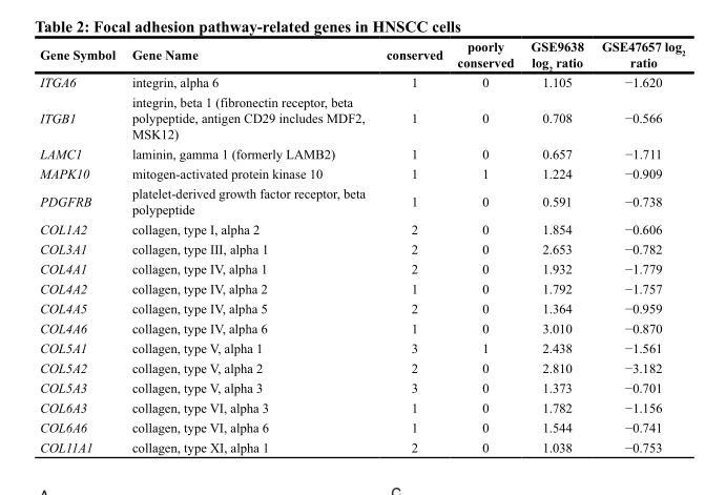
<table><thead><tr><td>Gene Symbol</td><td>Gene Name</td><td>conserved</td><td>poorly conserved</td><td>GSE9638 log<sub>2</sub> ratio</td><td>GSE47657 log<sub>2</sub> ratio</td></tr></thead><tbody><tr><td>ITGA6</td><td>integrin, alpha 6</td><td>1</td><td>0</td><td>1.105</td><td>−1.620</td></tr><tr><td>ITGB1</td><td>integrin, beta 1 (fibronectin receptor, beta polypeptide, antigen CD29 includes MDF2, MSK12)</td><td>1</td><td>0</td><td>0.708</td><td>−0.566</td></tr><tr><td>LAMC1</td><td>laminin, gamma 1 (formerly LAMB2)</td><td>1</td><td>0</td><td>0.657</td><td>−1.711</td></tr><tr><td>MAPK10</td><td>mitogen-activated protein kinase 10</td><td>1</td><td>1</td><td>1.224</td><td>−0.909</td></tr><tr><td>PDGFRB</td><td>platelet-derived growth factor receptor, beta polypeptide</td><td>1</td><td>0</td><td>0.591</td><td>−0.738</td></tr><tr><td>COL1A2</td><td>collagen, type I, alpha 2</td><td>2</td><td>0</td><td>1.854</td><td>−0.606</td></tr><tr><td>COL3A1</td><td>collagen, type III, alpha 1</td><td>2</td><td>0</td><td>2.653</td><td>−0.782</td></tr><tr><td>COL4A1</td><td>collagen, type IV, alpha 1</td><td>2</td><td>0</td><td>1.932</td><td>−1.779</td></tr><tr><td>COL4A2</td><td>collagen, type IV, alpha 2</td><td>1</td><td>0</td><td>1.792</td><td>−1.757</td></tr><tr><td>COL4A5</td><td>collagen, type IV, alpha 5</td><td>2</td><td>0</td><td>1.364</td><td>−0.959</td></tr><tr><td>COL4A6</td><td>collagen, type IV, alpha 6</td><td>1</td><td>0</td><td>3.010</td><td>−0.870</td></tr><tr><td>COL5A1</td><td>collagen, type V, alpha 1</td><td>3</td><td>1</td><td>2.438</td><td>−1.561</td></tr><tr><td>COL5A2</td><td>collagen, type V, alpha 2</td><td>2</td><td>0</td><td>2.810</td><td>−3.182</td></tr><tr><td>COL5A3</td><td>collagen, type V, alpha 3</td><td>3</td><td>0</td><td>1.373</td><td>−0.701</td></tr><tr><td>COL6A3</td><td>collagen, type VI, alpha 3</td><td>1</td><td>0</td><td>1.782</td><td>−1.156</td></tr><tr><td>COL6A6</td><td>collagen, type VI, alpha 6</td><td>1</td><td>0</td><td>1.544</td><td>−0.741</td></tr><tr><td>COL11A1</td><td>collagen, type XI, alpha 1</td><td>2</td><td>0</td><td>1.038</td><td>−0.753</td></tr></tbody></table>